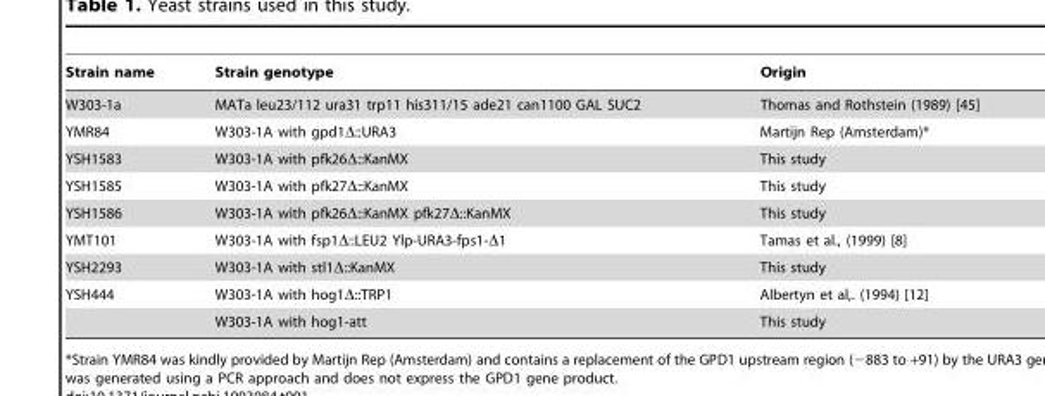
<table><thead><tr><td>Strain name</td><td>Strain genotype</td><td>Origin</td></tr></thead><tbody><tr><td>W303-1a</td><td>MATa leu23/112 ura31 trp11 his311/15 ade21 can1100 GAL SUC2</td><td>Thomas and Rothstein (1989) [45]</td></tr><tr><td>YMR84</td><td>W303-1A with gpd1Δ::URA3</td><td>Martijn Rep (Amsterdam)*</td></tr><tr><td>YSH1583</td><td>W303-1A with pfk26Δ::KanMX</td><td>This study</td></tr><tr><td>YSH1585</td><td>W303-1A with pfk27Δ::KanMX</td><td>This study</td></tr><tr><td>YSH1586</td><td>W303-1A with pfk26Δ::KanMX pfk27Δ::KanMX</td><td>This study</td></tr><tr><td>YMT101</td><td>W303-1A with fsp1Δ::LEU2 Ylp-URA3-fps1-Δ1</td><td>Tamas et al., (1999) [8]</td></tr><tr><td>YSH2293</td><td>W303-1A with stl1Δ::KanMX</td><td>This study</td></tr><tr><td rowspan="2">YSH444</td><td>W303-1A with hog1Δ::TRP1</td><td>Albertyn et al,. (1994) [12]</td></tr><tr><td>W303-1A with hog1-att</td><td>This study</td></tr></tbody></table>